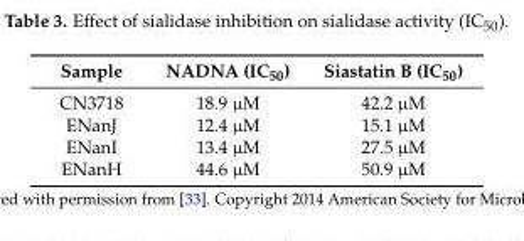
<table><thead><tr><td>Sample</td><td>NADNA (IC<sub>50</sub>)</td><td>Siastatin B (IC<sub>50</sub>)</td></tr></thead><tbody><tr><td>CN3718</td><td>18.9 µM</td><td>42.2 µM</td></tr><tr><td>ENanJ</td><td>12.4 µM</td><td>15.1 µM</td></tr><tr><td>ENanI</td><td>13.4 µM</td><td>27.5 µM</td></tr><tr><td>ENanH</td><td>44.6 µM</td><td>50.9 µM</td></tr></tbody></table>